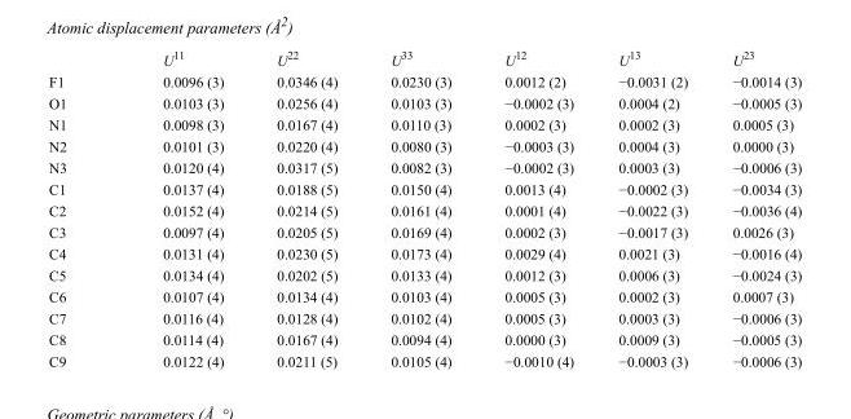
<table><thead><tr><td></td><td>U<sup>11</sup></td><td>U<sup>22</sup></td><td>U<sup>33</sup></td><td>U<sup>12</sup></td><td>U<sup>13</sup></td><td>U<sup>23</sup></td></tr></thead><tbody><tr><td>F1</td><td>0.0096 (3)</td><td>0.0346 (4)</td><td>0.0230 (3)</td><td>0.0012 (2)</td><td>−0.0031 (2)</td><td>−0.0014 (3)</td></tr><tr><td>O1</td><td>0.0103 (3)</td><td>0.0256 (4)</td><td>0.0103 (3)</td><td>−0.0002 (3)</td><td>0.0004 (2)</td><td>−0.0005 (3)</td></tr><tr><td>N1</td><td>0.0098 (3)</td><td>0.0167 (4)</td><td>0.0110 (3)</td><td>0.0002 (3)</td><td>0.0002 (3)</td><td>0.0005 (3)</td></tr><tr><td>N2</td><td>0.0101 (3)</td><td>0.0220 (4)</td><td>0.0080 (3)</td><td>−0.0003 (3)</td><td>0.0004 (3)</td><td>0.0000 (3)</td></tr><tr><td>N3</td><td>0.0120 (4)</td><td>0.0317 (5)</td><td>0.0082 (3)</td><td>−0.0002 (3)</td><td>0.0003 (3)</td><td>−0.0006 (3)</td></tr><tr><td>C1</td><td>0.0137 (4)</td><td>0.0188 (5)</td><td>0.0150 (4)</td><td>0.0013 (4)</td><td>−0.0002 (3)</td><td>−0.0034 (3)</td></tr><tr><td>C2</td><td>0.0152 (4)</td><td>0.0214 (5)</td><td>0.0161 (4)</td><td>0.0001 (4)</td><td>−0.0022 (3)</td><td>−0.0036 (4)</td></tr><tr><td>C3</td><td>0.0097 (4)</td><td>0.0205 (5)</td><td>0.0169 (4)</td><td>0.0002 (3)</td><td>−0.0017 (3)</td><td>0.0026 (3)</td></tr><tr><td>C4</td><td>0.0131 (4)</td><td>0.0230 (5)</td><td>0.0173 (4)</td><td>0.0029 (4)</td><td>0.0021 (3)</td><td>−0.0016 (4)</td></tr><tr><td>C5</td><td>0.0134 (4)</td><td>0.0202 (5)</td><td>0.0133 (4)</td><td>0.0012 (3)</td><td>0.0006 (3)</td><td>−0.0024 (3)</td></tr><tr><td>C6</td><td>0.0107 (4)</td><td>0.0134 (4)</td><td>0.0103 (4)</td><td>0.0005 (3)</td><td>0.0002 (3)</td><td>0.0007 (3)</td></tr><tr><td>C7</td><td>0.0116 (4)</td><td>0.0128 (4)</td><td>0.0102 (4)</td><td>0.0005 (3)</td><td>0.0003 (3)</td><td>−0.0006 (3)</td></tr><tr><td>C8</td><td>0.0114 (4)</td><td>0.0167 (4)</td><td>0.0094 (4)</td><td>0.0000 (3)</td><td>0.0009 (3)</td><td>−0.0005 (3)</td></tr><tr><td>C9</td><td>0.0122 (4)</td><td>0.0211 (5)</td><td>0.0105 (4)</td><td>−0.0010 (4)</td><td>−0.0003 (3)</td><td>−0.0006 (3)</td></tr></tbody></table>